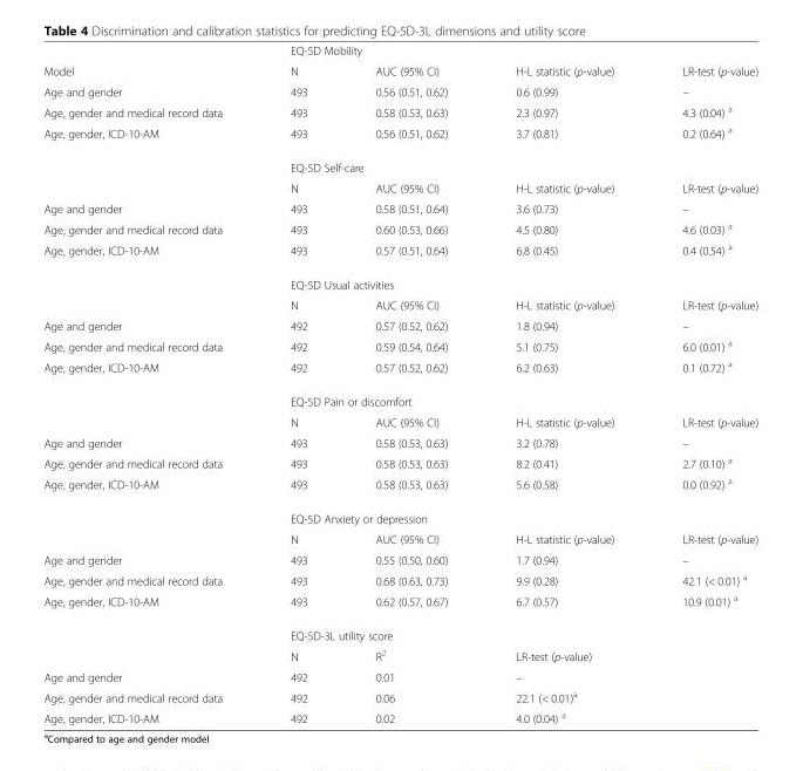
<table><thead><tr><td rowspan="2">Model</td><td colspan="4">EQ-5D Mobility</td></tr><tr><td>N</td><td>AUC (95% CI)</td><td>H-L statistic (p-value)</td><td>LR-test (p-value)</td></tr></thead><tbody><tr><td>Age and gender</td><td>493</td><td>0.56 (0.51, 0.62)</td><td>0.6 (0.99)</td><td>–</td></tr><tr><td>Age, gender and medical record data</td><td>493</td><td>0.58 (0.53, 0.63)</td><td>2.3 (0.97)</td><td>4.3 (0.04) <sup>a</sup></td></tr><tr><td rowspan="3">Age, gender, ICD-10-AM</td><td>493</td><td>0.56 (0.51, 0.62)</td><td>3.7 (0.81)</td><td>0.2 (0.64) <sup>a</sup></td></tr><tr><td colspan="4">EQ-5D Self-care</td></tr><tr><td>N</td><td>AUC (95% CI)</td><td>H-L statistic (p-value)</td><td>LR-test (p-value)</td></tr><tr><td>Age and gender</td><td>493</td><td>0.58 (0.51, 0.64)</td><td>3.6 (0.73)</td><td>–</td></tr><tr><td>Age, gender and medical record data</td><td>493</td><td>0.60 (0.53, 0.66)</td><td>4.5 (0.80)</td><td>4.6 (0.03) <sup>a</sup></td></tr><tr><td rowspan="3">Age, gender, ICD-10-AM</td><td>493</td><td>0.57 (0.51, 0.64)</td><td>6.8 (0.45)</td><td>0.4 (0.54) <sup>a</sup></td></tr><tr><td colspan="4">EQ-5D Usual activities</td></tr><tr><td>N</td><td>AUC (95% CI)</td><td>H-L statistic (p-value)</td><td>LR-test (p-value)</td></tr><tr><td>Age and gender</td><td>492</td><td>0.57 (0.52, 0.62)</td><td>1.8 (0.94)</td><td>–</td></tr><tr><td>Age, gender and medical record data</td><td>492</td><td>0.59 (0.54, 0.64)</td><td>5.1 (0.75)</td><td>6.0 (0.01) <sup>a</sup></td></tr><tr><td rowspan="3">Age, gender, ICD-10-AM</td><td>492</td><td>0.57 (0.52, 0.62)</td><td>6.2 (0.63)</td><td>0.1 (0.72) <sup>a</sup></td></tr><tr><td colspan="4">EQ-5D Pain or discomfort</td></tr><tr><td>N</td><td>AUC (95% CI)</td><td>H-L statistic (p-value)</td><td>LR-test (p-value)</td></tr><tr><td>Age and gender</td><td>493</td><td>0.58 (0.53, 0.63)</td><td>3.2 (0.78)</td><td>–</td></tr><tr><td>Age, gender and medical record data</td><td>493</td><td>0.58 (0.53, 0.63)</td><td>8.2 (0.41)</td><td>2.7 (0.10) <sup>a</sup></td></tr><tr><td rowspan="3">Age, gender, ICD-10-AM</td><td>493</td><td>0.58 (0.53, 0.63)</td><td>5.6 (0.58)</td><td>0.0 (0.92) <sup>a</sup></td></tr><tr><td colspan="4">EQ-5D Anxiety or depression</td></tr><tr><td>N</td><td>AUC (95% CI)</td><td>H-L statistic (p-value)</td><td>LR-test (p-value)</td></tr><tr><td>Age and gender</td><td>493</td><td>0.55 (0.50, 0.60)</td><td>1.7 (0.94)</td><td>–</td></tr><tr><td>Age, gender and medical record data</td><td>493</td><td>0.68 (0.63, 0.73)</td><td>9.9 (0.28)</td><td>42.1 (&lt; 0.01) <sup>a</sup></td></tr><tr><td rowspan="3">Age, gender, ICD-10-AM</td><td>493</td><td>0.62 (0.57, 0.67)</td><td>6.7 (0.57)</td><td>10.9 (0.01) <sup>a</sup></td></tr><tr><td colspan="4">EQ-5D-3L utility score</td></tr><tr><td>N</td><td>R<sup>2</sup></td><td colspan="2">LR-test (p-value)</td></tr><tr><td>Age and gender</td><td>492</td><td>0.01</td><td colspan="2">–</td></tr><tr><td>Age, gender and medical record data</td><td>492</td><td>0.06</td><td colspan="2">22.1 (&lt; 0.01)<sup>a</sup></td></tr><tr><td>Age, gender, ICD-10-AM</td><td>492</td><td>0.02</td><td colspan="2">4.0 (0.04) <sup>a</sup></td></tr></tbody></table>